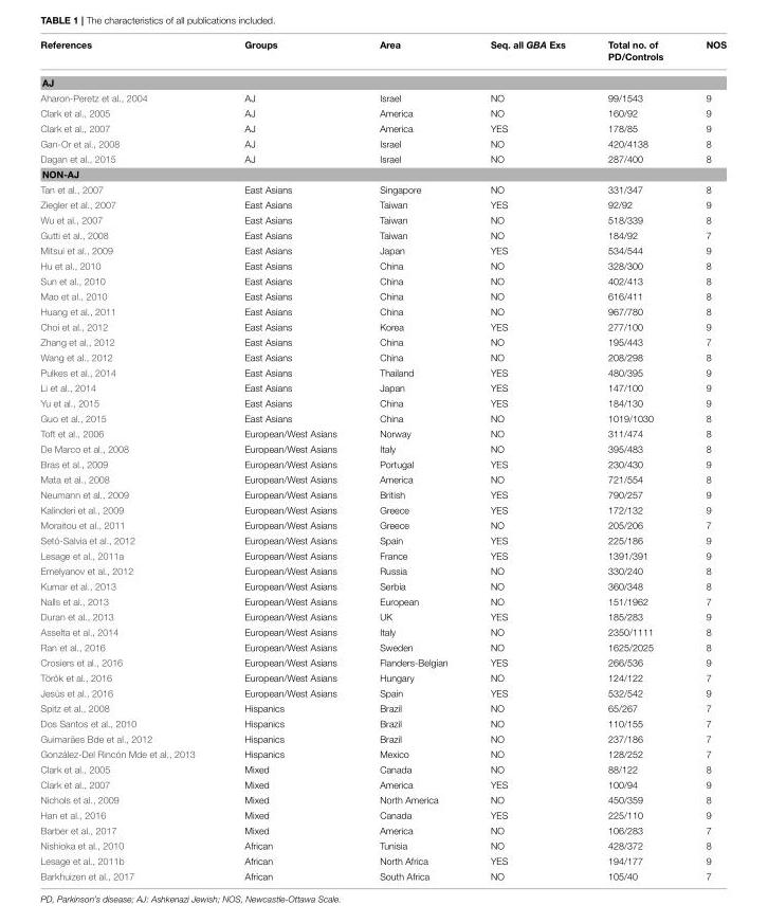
<table><thead><tr><td rowspan="2">References</td><td rowspan="2">Groups</td><td rowspan="2">Area</td><td rowspan="2">Seq. all GBA Exs</td><td rowspan="2">Total no. of PD/Controls</td><td rowspan="2">NOS</td></tr><tr></tr></thead><tbody><tr><td colspan="6">AJ</td></tr><tr><td>Aharon-Peretz et al., 2004</td><td>AJ</td><td>Israel</td><td>NO</td><td>99/1543</td><td>9</td></tr><tr><td>Clark et al., 2005</td><td>AJ</td><td>America</td><td>NO</td><td>160/92</td><td>9</td></tr><tr><td>Clark et al., 2007</td><td>AJ</td><td>America</td><td>YES</td><td>178/85</td><td>9</td></tr><tr><td>Gan-Or et al., 2008</td><td>AJ</td><td>Israel</td><td>NO</td><td>420/4138</td><td>8</td></tr><tr><td>Dagan et al., 2015</td><td>AJ</td><td>Israel</td><td>NO</td><td>287/400</td><td>8</td></tr><tr><td colspan="6">NON-AJ</td></tr><tr><td>Tan et al., 2007</td><td>East Asians</td><td>Singapore</td><td>NO</td><td>331/347</td><td>8</td></tr><tr><td>Ziegler et al., 2007</td><td>East Asians</td><td>Taiwan</td><td>YES</td><td>92/92</td><td>9</td></tr><tr><td>Wu et al., 2007</td><td>East Asians</td><td>Taiwan</td><td>NO</td><td>518/339</td><td>8</td></tr><tr><td>Gutti et al., 2008</td><td>East Asians</td><td>Taiwan</td><td>NO</td><td>184/92</td><td>7</td></tr><tr><td>Mitsui et al., 2009</td><td>East Asians</td><td>Japan</td><td>YES</td><td>534/544</td><td>9</td></tr><tr><td>Hu et al., 2010</td><td>East Asians</td><td>China</td><td>NO</td><td>328/300</td><td>8</td></tr><tr><td>Sun et al., 2010</td><td>East Asians</td><td>China</td><td>NO</td><td>402/413</td><td>8</td></tr><tr><td>Mao et al., 2010</td><td>East Asians</td><td>China</td><td>NO</td><td>616/411</td><td>8</td></tr><tr><td>Huang et al., 2011</td><td>East Asians</td><td>China</td><td>NO</td><td>967/780</td><td>8</td></tr><tr><td>Choi et al., 2012</td><td>East Asians</td><td>Korea</td><td>YES</td><td>277/100</td><td>9</td></tr><tr><td>Zhang et al., 2012</td><td>East Asians</td><td>China</td><td>NO</td><td>195/443</td><td>7</td></tr><tr><td>Wang et al., 2012</td><td>East Asians</td><td>China</td><td>NO</td><td>208/298</td><td>8</td></tr><tr><td>Pulkes et al., 2014</td><td>East Asians</td><td>Thailand</td><td>YES</td><td>480/395</td><td>9</td></tr><tr><td>Li et al., 2014</td><td>East Asians</td><td>Japan</td><td>YES</td><td>147/100</td><td>9</td></tr><tr><td>Yu et al., 2015</td><td>East Asians</td><td>China</td><td>YES</td><td>184/130</td><td>9</td></tr><tr><td>Guo et al., 2015</td><td>East Asians</td><td>China</td><td>NO</td><td>1019/1030</td><td>8</td></tr><tr><td>Toft et al., 2006</td><td>European/West Asians</td><td>Norway</td><td>NO</td><td>311/474</td><td>8</td></tr><tr><td>De Marco et al., 2008</td><td>European/West Asians</td><td>Italy</td><td>NO</td><td>395/483</td><td>8</td></tr><tr><td>Bras et al., 2009</td><td>European/West Asians</td><td>Portugal</td><td>YES</td><td>230/430</td><td>9</td></tr><tr><td>Mata et al., 2008</td><td>European/West Asians</td><td>America</td><td>NO</td><td>721/554</td><td>8</td></tr><tr><td>Neumann et al., 2009</td><td>European/West Asians</td><td>British</td><td>YES</td><td>790/257</td><td>9</td></tr><tr><td>Kalinderi et al., 2009</td><td>European/West Asians</td><td>Greece</td><td>YES</td><td>172/132</td><td>9</td></tr><tr><td>Moraitou et al., 2011</td><td>European/West Asians</td><td>Greece</td><td>NO</td><td>205/206</td><td>7</td></tr><tr><td>Setó-Salvia et al., 2012</td><td>European/West Asians</td><td>Spain</td><td>YES</td><td>225/186</td><td>9</td></tr><tr><td>Lesage et al., 2011a</td><td>European/West Asians</td><td>France</td><td>YES</td><td>1391/391</td><td>9</td></tr><tr><td>Emelyanov et al., 2012</td><td>European/West Asians</td><td>Russia</td><td>NO</td><td>330/240</td><td>8</td></tr><tr><td>Kumar et al., 2013</td><td>European/West Asians</td><td>Serbia</td><td>NO</td><td>360/348</td><td>8</td></tr><tr><td>Nalls et al., 2013</td><td>European/West Asians</td><td>European</td><td>NO</td><td>151/1962</td><td>7</td></tr><tr><td>Duran et al., 2013</td><td>European/West Asians</td><td>UK</td><td>YES</td><td>185/283</td><td>9</td></tr><tr><td>Asselta et al., 2014</td><td>European/West Asians</td><td>Italy</td><td>NO</td><td>2350/1111</td><td>8</td></tr><tr><td>Ran et al., 2016</td><td>European/West Asians</td><td>Sweden</td><td>NO</td><td>1625/2025</td><td>8</td></tr><tr><td>Crosiers et al., 2016</td><td>European/West Asians</td><td>Flanders-Belgian</td><td>YES</td><td>266/536</td><td>9</td></tr><tr><td>Török et al., 2016</td><td>European/West Asians</td><td>Hungary</td><td>NO</td><td>124/122</td><td>7</td></tr><tr><td>Jesús et al., 2016</td><td>European/West Asians</td><td>Spain</td><td>YES</td><td>532/542</td><td>9</td></tr><tr><td>Spitz et al., 2008</td><td>Hispanics</td><td>Brazil</td><td>NO</td><td>65/267</td><td>7</td></tr><tr><td>Dos Santos et al., 2010</td><td>Hispanics</td><td>Brazil</td><td>NO</td><td>110/155</td><td>7</td></tr><tr><td>Guimarães Bde et al., 2012</td><td>Hispanics</td><td>Brazil</td><td>NO</td><td>237/186</td><td>7</td></tr><tr><td>González-Del Rincón Mde et al., 2013</td><td>Hispanics</td><td>Mexico</td><td>NO</td><td>128/252</td><td>7</td></tr><tr><td>Clark et al., 2005</td><td>Mixed</td><td>Canada</td><td>NO</td><td>88/122</td><td>8</td></tr><tr><td>Clark et al., 2007</td><td>Mixed</td><td>America</td><td>YES</td><td>100/94</td><td>9</td></tr><tr><td>Nichols et al., 2009</td><td>Mixed</td><td>North America</td><td>NO</td><td>450/359</td><td>8</td></tr><tr><td>Han et al., 2016</td><td>Mixed</td><td>Canada</td><td>YES</td><td>225/110</td><td>9</td></tr><tr><td>Barber et al., 2017</td><td>Mixed</td><td>America</td><td>NO</td><td>106/283</td><td>7</td></tr><tr><td>Nishioka et al., 2010</td><td>African</td><td>Tunisia</td><td>NO</td><td>428/372</td><td>8</td></tr><tr><td>Lesage et al., 2011b</td><td>African</td><td>North Africa</td><td>YES</td><td>194/177</td><td>9</td></tr><tr><td>Barkhuizen et al., 2017</td><td>African</td><td>South Africa</td><td>NO</td><td>105/40</td><td>7</td></tr></tbody></table>